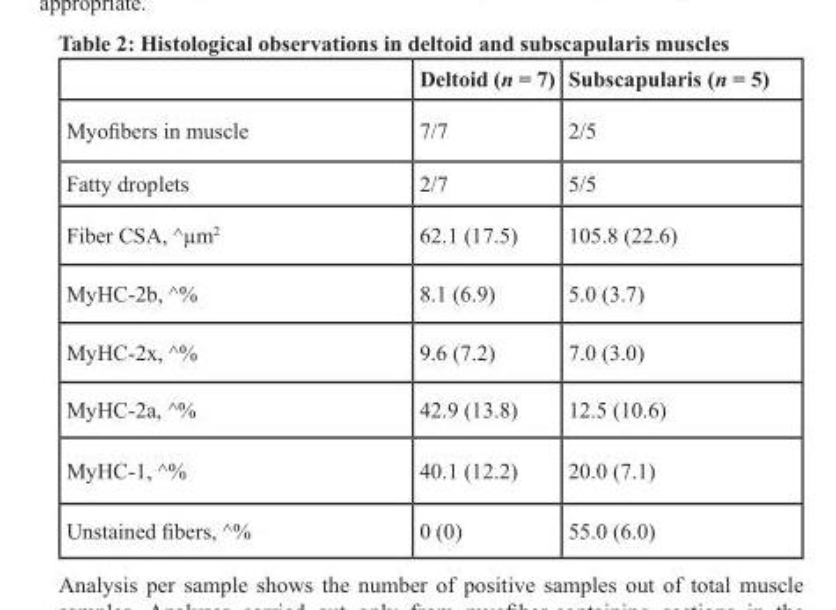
<table><thead><tr><td></td><td>Deltoid (n = 7)</td><td>Subscapularis (n = 5)</td></tr></thead><tbody><tr><td>Myofibers in muscle</td><td>7/7</td><td>2/5</td></tr><tr><td>Fatty droplets</td><td>2/7</td><td>5/5</td></tr><tr><td>Fiber CSA, ∧µm<sup>2</sup></td><td>62.1 (17.5)</td><td>105.8 (22.6)</td></tr><tr><td>MyHC-2b, ∧%</td><td>8.1 (6.9)</td><td>5.0 (3.7)</td></tr><tr><td>MyHC-2x, ∧%</td><td>9.6 (7.2)</td><td>7.0 (3.0)</td></tr><tr><td>MyHC-2a, ∧%</td><td>42.9 (13.8)</td><td>12.5 (10.6)</td></tr><tr><td>MyHC-1, ∧%</td><td>40.1 (12.2)</td><td>20.0 (7.1)</td></tr><tr><td>Unstained fibers, ∧%</td><td>0 (0)</td><td>55.0 (6.0)</td></tr></tbody></table>